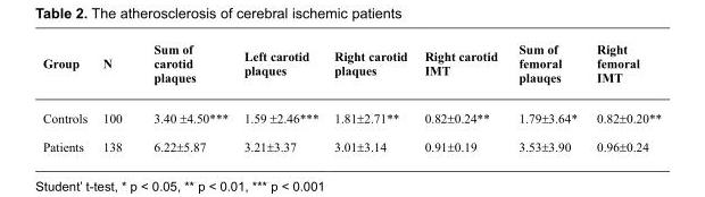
<table><thead><tr><td>Group</td><td>N</td><td>Sum of carotid plaques</td><td>Left carotid plaques</td><td>Right carotid plaques</td><td>Right carotid IMT</td><td>Sum of femoral plauqes</td><td>Right femoral IMT</td></tr></thead><tbody><tr><td>Controls</td><td>100</td><td>3.40 ±4.50***</td><td>1.59 ±2.46***</td><td>1.81±2.71**</td><td>0.82±0.24**</td><td>1.79±3.64*</td><td>0.82±0.20**</td></tr><tr><td>Patients</td><td>138</td><td>6.22±5.87</td><td>3.21±3.37</td><td>3.01±3.14</td><td>0.91±0.19</td><td>3.53±3.90</td><td>0.96±0.24</td></tr></tbody></table>